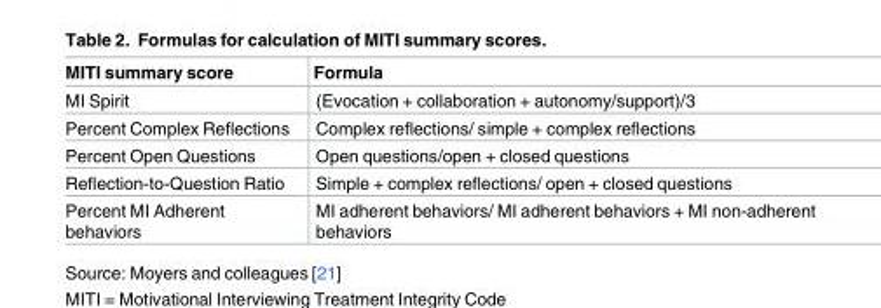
<table><thead><tr><td>MITI summary score</td><td>Formula</td></tr></thead><tbody><tr><td>MI Spirit</td><td>(Evocation + collaboration + autonomy/support)/3</td></tr><tr><td>Percent Complex Reflections</td><td>Complex reflections/ simple + complex reflections</td></tr><tr><td>Percent Open Questions</td><td>Open questions/open + closed questions</td></tr><tr><td>Reflection-to-Question Ratio</td><td>Simple + complex reflections/ open + closed questions</td></tr><tr><td>Percent MI Adherent behaviors</td><td>MI adherent behaviors/ MI adherent behaviors + MI non-adherent behaviors</td></tr></tbody></table>